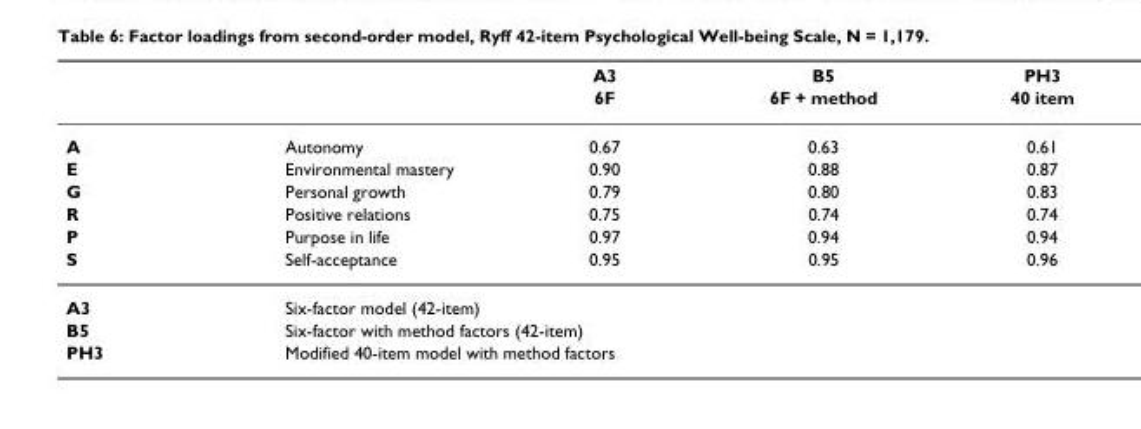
<table><thead><tr><td rowspan="2"></td><td rowspan="2"></td><td rowspan="2">A3 6F</td><td rowspan="2">B5 6F + method</td><td rowspan="2">PH3 40 item</td></tr><tr></tr></thead><tbody><tr><td>A</td><td>Autonomy</td><td>0.67</td><td>0.63</td><td>0.61</td></tr><tr><td>E</td><td>Environmental mastery</td><td>0.90</td><td>0.88</td><td>0.87</td></tr><tr><td>G</td><td>Personal growth</td><td>0.79</td><td>0.80</td><td>0.83</td></tr><tr><td>R</td><td>Positive relations</td><td>0.75</td><td>0.74</td><td>0.74</td></tr><tr><td>P</td><td>Purpose in life</td><td>0.97</td><td>0.94</td><td>0.94</td></tr><tr><td>S</td><td>Self-acceptance</td><td>0.95</td><td>0.95</td><td>0.96</td></tr><tr><td>A3</td><td colspan="4">Six-factor model (42-item)</td></tr><tr><td>B5</td><td colspan="4">Six-factor with method factors (42-item)</td></tr><tr><td>PH3</td><td colspan="4">Modified 40-item model with method factors</td></tr></tbody></table>